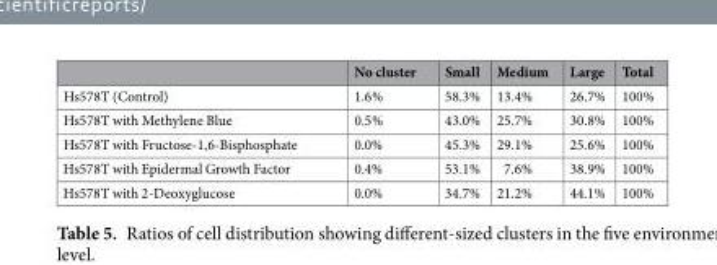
<table><thead><tr><td></td><td>No cluster</td><td>Small</td><td>Medium</td><td>Large</td><td>Total</td></tr></thead><tbody><tr><td>Hs578T (Control)</td><td>1.6%</td><td>58.3%</td><td>13.4%</td><td>26.7%</td><td>100%</td></tr><tr><td>Hs578T with Methylene Blue</td><td>0.5%</td><td>43.0%</td><td>25.7%</td><td>30.8%</td><td>100%</td></tr><tr><td>Hs578T with Fructose-1,6-Bisphosphate</td><td>0.0%</td><td>45.3%</td><td>29.1%</td><td>25.6%</td><td>100%</td></tr><tr><td>Hs578T with Epidermal Growth Factor</td><td>0.4%</td><td>53.1%</td><td>7.6%</td><td>38.9%</td><td>100%</td></tr><tr><td>Hs578T with 2-Deoxyglucose</td><td>0.0%</td><td>34.7%</td><td>21.2%</td><td>44.1%</td><td>100%</td></tr></tbody></table>